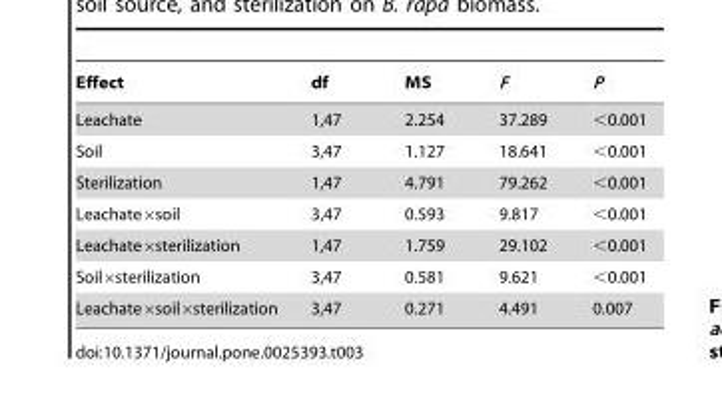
<table><thead><tr><td>Effect</td><td>df</td><td>MS</td><td>F</td><td>P</td></tr></thead><tbody><tr><td>Leachate</td><td>1,47</td><td>2.254</td><td>37.289</td><td>&lt;0.001</td></tr><tr><td>Soil</td><td>3,47</td><td>1.127</td><td>18.641</td><td>&lt;0.001</td></tr><tr><td>Sterilization</td><td>1,47</td><td>4.791</td><td>79.262</td><td>&lt;0.001</td></tr><tr><td>Leachate×soil</td><td>3,47</td><td>0.593</td><td>9.817</td><td>&lt;0.001</td></tr><tr><td>Leachate×sterilization</td><td>1,47</td><td>1.759</td><td>29.102</td><td>&lt;0.001</td></tr><tr><td>Soil×sterilization</td><td>3,47</td><td>0.581</td><td>9.621</td><td>&lt;0.001</td></tr><tr><td>Leachate×soil×sterilization</td><td>3,47</td><td>0.271</td><td>4.491</td><td>0.007</td></tr></tbody></table>